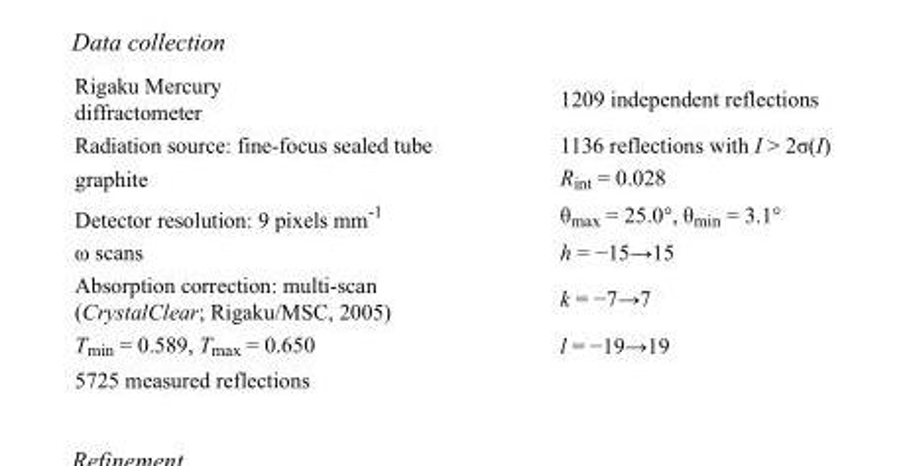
<table><tbody><tr><td>Rigaku Mercury diffractometer</td><td>1209 independent reflections</td></tr><tr><td>Radiation source: fine-focus sealed tube</td><td>1136 reflections with I &gt; 2σ(I)</td></tr><tr><td>graphite</td><td>R<sub>int</sub> = 0.028</td></tr><tr><td>Detector resolution: 9 pixels mm<sup>-1</sup></td><td>θ<sub>max</sub> = 25.0°, θ<sub>min</sub> = 3.1°</td></tr><tr><td>ω scans</td><td>h = −15→15</td></tr><tr><td>Absorption correction: multi-scan (CrystalClear; Rigaku/MSC, 2005)</td><td>k = −7→7</td></tr><tr><td>T<sub>min</sub> = 0.589, T<sub>max</sub> = 0.650</td><td>l = −19→19</td></tr><tr><td>5725 measured reflections</td><td></td></tr></tbody></table>